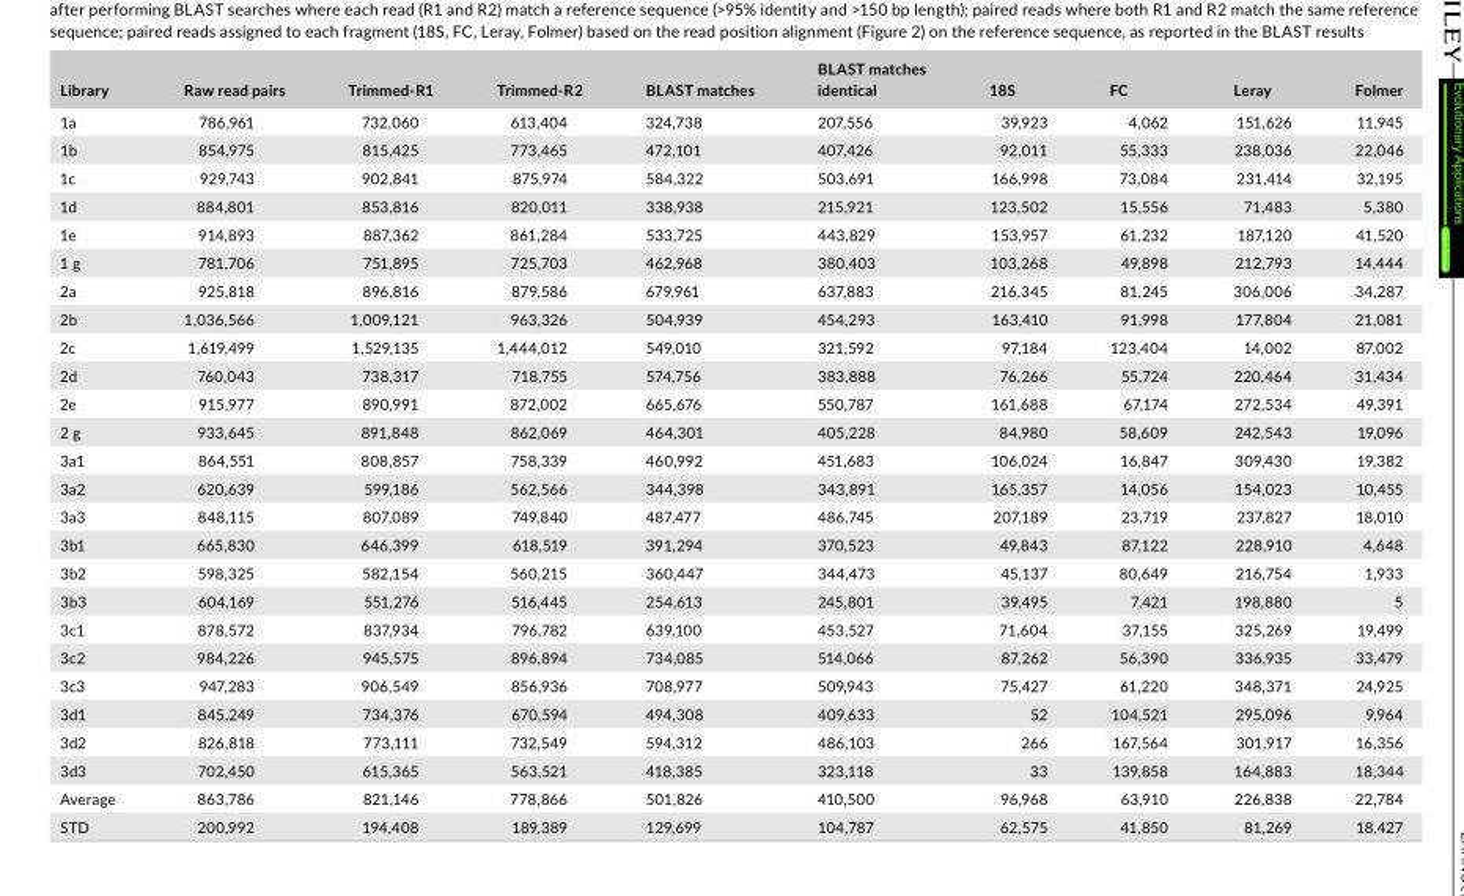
<table><thead><tr><td>Library</td><td>Raw read pairs</td><td>Trimmed- R1</td><td>Trimmed- R2</td><td>BLAST matches</td><td>BLAST matches identical</td><td>18S</td><td>FC</td><td>Leray</td><td>Folmer</td></tr></thead><tbody><tr><td>1a</td><td>786,961</td><td>732,060</td><td>613,404</td><td>324,738</td><td>207,556</td><td>39,923</td><td>4,062</td><td>151,626</td><td>11,945</td></tr><tr><td>1b</td><td>854,975</td><td>815,425</td><td>773,465</td><td>472,101</td><td>407,426</td><td>92,011</td><td>55,333</td><td>238,036</td><td>22,046</td></tr><tr><td>1c</td><td>929,743</td><td>902,841</td><td>875,974</td><td>584,322</td><td>503,691</td><td>166,998</td><td>73,084</td><td>231,414</td><td>32,195</td></tr><tr><td>1d</td><td>884,801</td><td>853,816</td><td>820,011</td><td>338,938</td><td>215,921</td><td>123,502</td><td>15,556</td><td>71,483</td><td>5,380</td></tr><tr><td>1e</td><td>914,893</td><td>887,362</td><td>861,284</td><td>533,725</td><td>443,829</td><td>153,957</td><td>61,232</td><td>187,120</td><td>41,520</td></tr><tr><td>1 g</td><td>781,706</td><td>751,895</td><td>725,703</td><td>462,968</td><td>380,403</td><td>103,268</td><td>49,898</td><td>212,793</td><td>14,444</td></tr><tr><td>2a</td><td>925,818</td><td>896,816</td><td>879,586</td><td>679,961</td><td>637,883</td><td>216,345</td><td>81,245</td><td>306,006</td><td>34,287</td></tr><tr><td>2b</td><td>1,036,566</td><td>1,009,121</td><td>963,326</td><td>504,939</td><td>454,293</td><td>163,410</td><td>91,998</td><td>177,804</td><td>21,081</td></tr><tr><td>2c</td><td>1,619,499</td><td>1,529,135</td><td>1,444,012</td><td>549,010</td><td>321,592</td><td>97,184</td><td>123,404</td><td>14,002</td><td>87,002</td></tr><tr><td>2d</td><td>760,043</td><td>738,317</td><td>718,755</td><td>574,756</td><td>383,888</td><td>76,266</td><td>55,724</td><td>220,464</td><td>31,434</td></tr><tr><td>2e</td><td>915,977</td><td>890,991</td><td>872,002</td><td>665,676</td><td>550,787</td><td>161,688</td><td>67,174</td><td>272,534</td><td>49,391</td></tr><tr><td>2 g</td><td>933,645</td><td>891,848</td><td>862,069</td><td>464,301</td><td>405,228</td><td>84,980</td><td>58,609</td><td>242,543</td><td>19,096</td></tr><tr><td>3a1</td><td>864,551</td><td>808,857</td><td>758,339</td><td>460,992</td><td>451,683</td><td>106,024</td><td>16,847</td><td>309,430</td><td>19,382</td></tr><tr><td>3a2</td><td>620,639</td><td>599,186</td><td>562,566</td><td>344,398</td><td>343,891</td><td>165,357</td><td>14,056</td><td>154,023</td><td>10,455</td></tr><tr><td>3a3</td><td>848,115</td><td>807,089</td><td>749,840</td><td>487,477</td><td>486,745</td><td>207,189</td><td>23,719</td><td>237,827</td><td>18,010</td></tr><tr><td>3b1</td><td>665,830</td><td>646,399</td><td>618,519</td><td>391,294</td><td>370,523</td><td>49,843</td><td>87,122</td><td>228,910</td><td>4,648</td></tr><tr><td>3b2</td><td>598,325</td><td>582,154</td><td>560,215</td><td>360,447</td><td>344,473</td><td>45,137</td><td>80,649</td><td>216,754</td><td>1,933</td></tr><tr><td>3b3</td><td>604,169</td><td>551,276</td><td>516,445</td><td>254,613</td><td>245,801</td><td>39,495</td><td>7,421</td><td>198,880</td><td>5</td></tr><tr><td>3c1</td><td>878,572</td><td>837,934</td><td>796,782</td><td>639,100</td><td>453,527</td><td>71,604</td><td>37,155</td><td>325,269</td><td>19,499</td></tr><tr><td>3c2</td><td>984,226</td><td>945,575</td><td>896,894</td><td>734,085</td><td>514,066</td><td>87,262</td><td>56,390</td><td>336,935</td><td>33,479</td></tr><tr><td>3c3</td><td>947,283</td><td>906,549</td><td>856,936</td><td>708,977</td><td>509,943</td><td>75,427</td><td>61,220</td><td>348,371</td><td>24,925</td></tr><tr><td>3d1</td><td>845,249</td><td>734,376</td><td>670,594</td><td>494,308</td><td>409,633</td><td>52</td><td>104,521</td><td>295,096</td><td>9,964</td></tr><tr><td>3d2</td><td>826,818</td><td>773,111</td><td>732,549</td><td>594,312</td><td>486,103</td><td>266</td><td>167,564</td><td>301,917</td><td>16,356</td></tr><tr><td>3d3</td><td>702,450</td><td>615,365</td><td>563,521</td><td>418,385</td><td>323,118</td><td>33</td><td>139,858</td><td>164,883</td><td>18,344</td></tr><tr><td>Average</td><td>863,786</td><td>821,146</td><td>778,866</td><td>501,826</td><td>410,500</td><td>96,968</td><td>63,910</td><td>226,838</td><td>22,784</td></tr><tr><td>STD</td><td>200,992</td><td>194,408</td><td>189,389</td><td>129,699</td><td>104,787</td><td>62,575</td><td>41,850</td><td>81,269</td><td>18,427</td></tr></tbody></table>